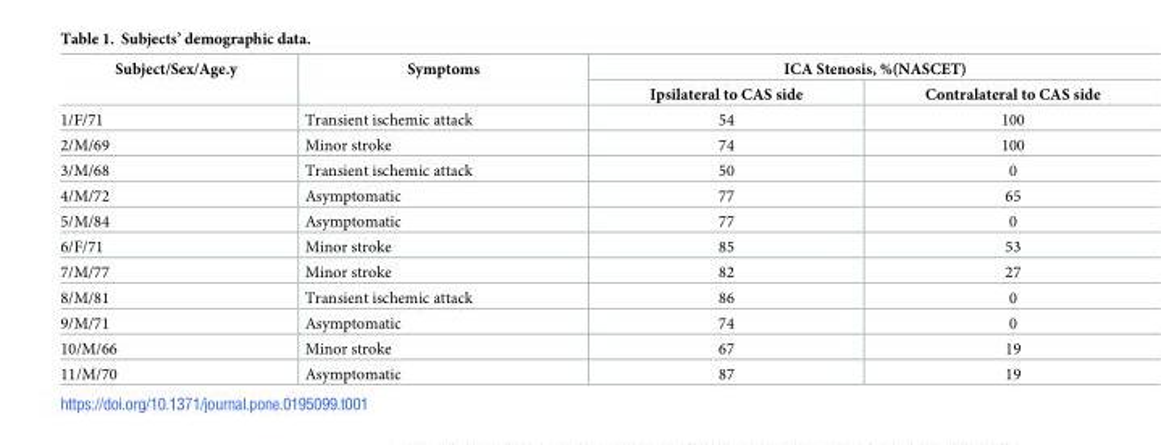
<table><thead><tr><td rowspan="2">Subject/Sex/Age.y</td><td rowspan="2">Symptoms</td><td colspan="2">ICA Stenosis, %(NASCET)</td></tr><tr><td>Ipsilateral to CAS side</td><td>Contralateral to CAS side</td></tr></thead><tbody><tr><td>1/F/71</td><td>Transient ischemic attack</td><td>54</td><td>100</td></tr><tr><td>2/M/69</td><td>Minor stroke</td><td>74</td><td>100</td></tr><tr><td>3/M/68</td><td>Transient ischemic attack</td><td>50</td><td>0</td></tr><tr><td>4/M/72</td><td>Asymptomatic</td><td>77</td><td>65</td></tr><tr><td>5/M/84</td><td>Asymptomatic</td><td>77</td><td>0</td></tr><tr><td>6/F/71</td><td>Minor stroke</td><td>85</td><td>53</td></tr><tr><td>7/M/77</td><td>Minor stroke</td><td>82</td><td>27</td></tr><tr><td>8/M/81</td><td>Transient ischemic attack</td><td>86</td><td>0</td></tr><tr><td>9/M/71</td><td>Asymptomatic</td><td>74</td><td>0</td></tr><tr><td>10/M/66</td><td>Minor stroke</td><td>67</td><td>19</td></tr><tr><td>11/M/70</td><td>Asymptomatic</td><td>87</td><td>19</td></tr></tbody></table>